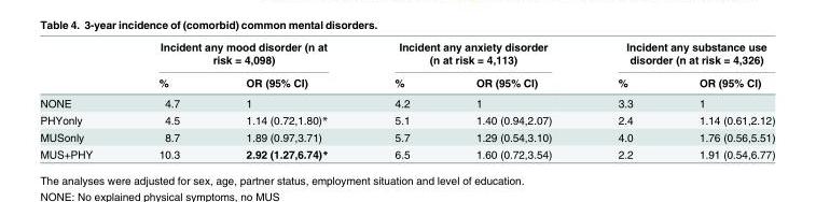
<table><thead><tr><td rowspan="2"></td><td colspan="2">Incident any mood disorder (n at risk = 4,098)</td><td colspan="2">Incident any anxiety disorder (n at risk = 4,113)</td><td colspan="2">Incident any substance use disorder (n at risk = 4,326)</td></tr><tr><td>%</td><td>OR (95% CI)</td><td>%</td><td>OR (95% CI)</td><td>%</td><td>OR (95% CI)</td></tr></thead><tbody><tr><td>NONE</td><td>4.7</td><td>1</td><td>4.2</td><td>1</td><td>3.3</td><td>1</td></tr><tr><td>PHYonly</td><td>4.5</td><td>1.14 (0.72,1.80)*</td><td>5.1</td><td>1.40 (0.94,2.07)</td><td>2.4</td><td>1.14 (0.61,2.12)</td></tr><tr><td>MUSonly</td><td>8.7</td><td>1.89 (0.97,3.71)</td><td>5.7</td><td>1.29 (0.54,3.10)</td><td>4.0</td><td>1.76 (0.56,5.51)</td></tr><tr><td>MUS+PHY</td><td>10.3</td><td>2.92 (1.27,6.74)*</td><td>6.5</td><td>1.60 (0.72,3.54)</td><td>2.2</td><td>1.91 (0.54,6.77)</td></tr></tbody></table>